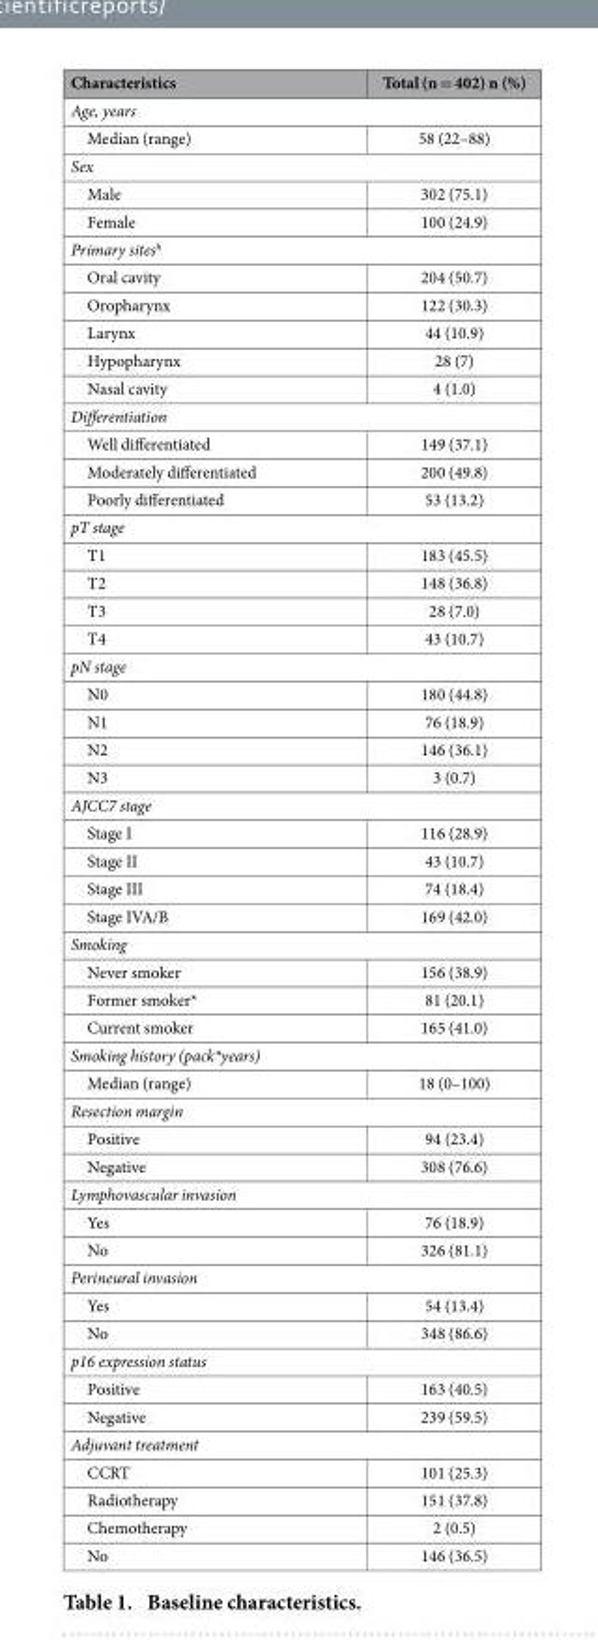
<table><thead><tr><td>Characteristics</td><td>Total (n = 402) n (%)</td></tr></thead><tbody><tr><td colspan="2">Age, years</td></tr><tr><td>Median (range)</td><td>58 (22–88)</td></tr><tr><td colspan="2">Sex</td></tr><tr><td>Male</td><td>302 (75.1)</td></tr><tr><td>Female</td><td>100 (24.9)</td></tr><tr><td colspan="2">Primary sites<sup>§</sup></td></tr><tr><td>Oral cavity</td><td>204 (50.7)</td></tr><tr><td>Oropharynx</td><td>122 (30.3)</td></tr><tr><td>Larynx</td><td>44 (10.9)</td></tr><tr><td>Hypopharynx</td><td>28 (7)</td></tr><tr><td>Nasal cavity</td><td>4 (1.0)</td></tr><tr><td colspan="2">Differentiation</td></tr><tr><td>Well differentiated</td><td>149 (37.1)</td></tr><tr><td>Moderately differentiated</td><td>200 (49.8)</td></tr><tr><td>Poorly differentiated</td><td>53 (13.2)</td></tr><tr><td colspan="2">pT stage</td></tr><tr><td>T1</td><td>183 (45.5)</td></tr><tr><td>T2</td><td>148 (36.8)</td></tr><tr><td>T3</td><td>28 (7.0)</td></tr><tr><td>T4</td><td>43 (10.7)</td></tr><tr><td colspan="2">pN stage</td></tr><tr><td>N0</td><td>180 (44.8)</td></tr><tr><td>N1</td><td>76 (18.9)</td></tr><tr><td>N2</td><td>146 (36.1)</td></tr><tr><td>N3</td><td>3 (0.7)</td></tr><tr><td colspan="2">AJCC7 stage</td></tr><tr><td>Stage I</td><td>116 (28.9)</td></tr><tr><td>Stage II</td><td>43 (10.7)</td></tr><tr><td>Stage III</td><td>74 (18.4)</td></tr><tr><td>Stage IVA/B</td><td>169 (42.0)</td></tr><tr><td colspan="2">Smoking</td></tr><tr><td>Never smoker</td><td>156 (38.9)</td></tr><tr><td>Former smoker*</td><td>81 (20.1)</td></tr><tr><td>Current smoker</td><td>165 (41.0)</td></tr><tr><td colspan="2">Smoking history (pack*years)</td></tr><tr><td>Median (range)</td><td>18 (0–100)</td></tr><tr><td colspan="2">Resection margin</td></tr><tr><td>Positive</td><td>94 (23.4)</td></tr><tr><td>Negative</td><td>308 (76.6)</td></tr><tr><td colspan="2">Lymphovascular invasion</td></tr><tr><td>Yes</td><td>76 (18.9)</td></tr><tr><td>No</td><td>326 (81.1)</td></tr><tr><td colspan="2">Perineural invasion</td></tr><tr><td>Yes</td><td>54 (13.4)</td></tr><tr><td>No</td><td>348 (86.6)</td></tr><tr><td colspan="2">p16 expression status</td></tr><tr><td>Positive</td><td>163 (40.5)</td></tr><tr><td>Negative</td><td>239 (59.5)</td></tr><tr><td colspan="2">Adjuvant treatment</td></tr><tr><td>CCRT</td><td>101 (25.3)</td></tr><tr><td>Radiotherapy</td><td>151 (37.8)</td></tr><tr><td>Chemotherapy</td><td>2 (0.5)</td></tr><tr><td>No</td><td>146 (36.5)</td></tr></tbody></table>